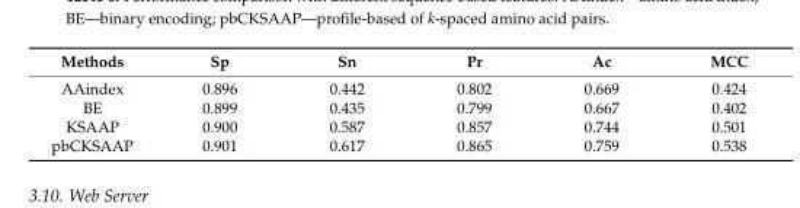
<table><thead><tr><td>Methods</td><td>Sp</td><td>Sn</td><td>Pr</td><td>Ac</td><td>MCC</td></tr></thead><tbody><tr><td>AAindex</td><td>0.896</td><td>0.442</td><td>0.802</td><td>0.669</td><td>0.424</td></tr><tr><td>BE</td><td>0.899</td><td>0.435</td><td>0.799</td><td>0.667</td><td>0.402</td></tr><tr><td>KSAAP</td><td>0.900</td><td>0.587</td><td>0.857</td><td>0.744</td><td>0.501</td></tr><tr><td>pbCKSAAP</td><td>0.901</td><td>0.617</td><td>0.865</td><td>0.759</td><td>0.538</td></tr></tbody></table>